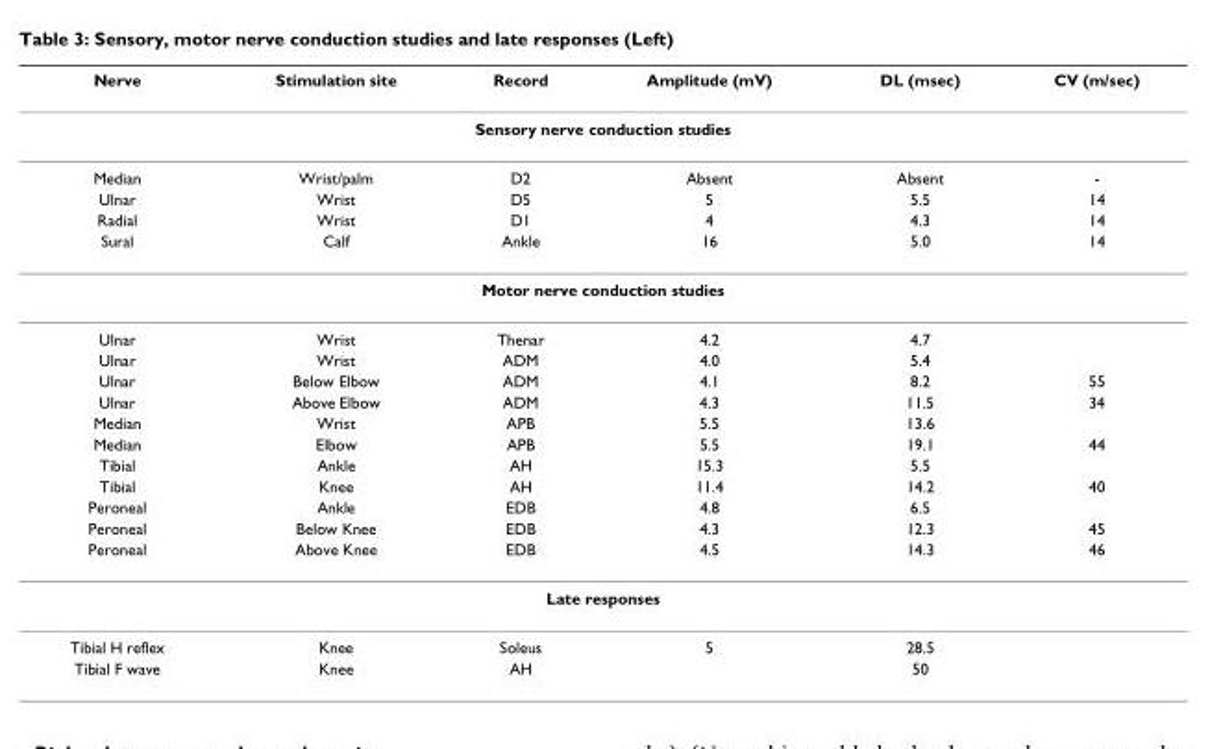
<table><thead><tr><td>Nerve</td><td>Stimulation site</td><td>Record</td><td>Amplitude (mV)</td><td>DL (msec)</td><td>CV (m/sec)</td></tr></thead><tbody><tr><td colspan="6">Sensory nerve conduction studies</td></tr><tr><td>Median</td><td>Wrist/palm</td><td>D2</td><td>Absent</td><td>Absent</td><td>-</td></tr><tr><td>Ulnar</td><td>Wrist</td><td>D5</td><td>5</td><td>5.5</td><td>14</td></tr><tr><td>Radial</td><td>Wrist</td><td>D1</td><td>4</td><td>4.3</td><td>14</td></tr><tr><td>Sural</td><td>Calf</td><td>Ankle</td><td>16</td><td>5.0</td><td>14</td></tr><tr><td colspan="6">Motor nerve conduction studies</td></tr><tr><td>Ulnar</td><td>Wrist</td><td>Thenar</td><td>4.2</td><td>4.7</td><td></td></tr><tr><td>Ulnar</td><td>Wrist</td><td>ADM</td><td>4.0</td><td>5.4</td><td></td></tr><tr><td>Ulnar</td><td>Below Elbow</td><td>ADM</td><td>4.1</td><td>8.2</td><td>55</td></tr><tr><td>Ulnar</td><td>Above Elbow</td><td>ADM</td><td>4.3</td><td>11.5</td><td>34</td></tr><tr><td>Median</td><td>Wrist</td><td>APB</td><td>5.5</td><td>13.6</td><td></td></tr><tr><td>Median</td><td>Elbow</td><td>APB</td><td>5.5</td><td>19.1</td><td>44</td></tr><tr><td>Tibial</td><td>Ankle</td><td>AH</td><td>15.3</td><td>5.5</td><td></td></tr><tr><td>Tibial</td><td>Knee</td><td>AH</td><td>11.4</td><td>14.2</td><td>40</td></tr><tr><td>Peroneal</td><td>Ankle</td><td>EDB</td><td>4.8</td><td>6.5</td><td></td></tr><tr><td>Peroneal</td><td>Below Knee</td><td>EDB</td><td>4.3</td><td>12.3</td><td>45</td></tr><tr><td>Peroneal</td><td>Above Knee</td><td>EDB</td><td>4.5</td><td>14.3</td><td>46</td></tr><tr><td colspan="6">Late responses</td></tr><tr><td>Tibial H reflex</td><td>Knee</td><td>Soleus</td><td>5</td><td>28.5</td><td></td></tr><tr><td>Tibial F wave</td><td>Knee</td><td>AH</td><td></td><td>50</td><td></td></tr></tbody></table>